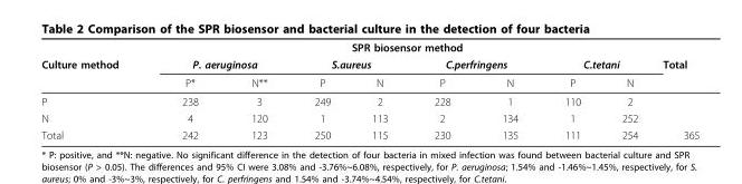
<table><thead><tr><td rowspan="3">Culture method</td><td colspan="8">SPR biosensor method</td><td rowspan="3">Total</td></tr><tr><td colspan="2">P. aeruginosa</td><td colspan="2">S.aureus</td><td colspan="2">C.perfringens</td><td colspan="2">C.tetani</td></tr><tr><td>P*</td><td>N**</td><td>P</td><td>N</td><td>P</td><td>N</td><td>P</td><td>N</td></tr></thead><tbody><tr><td>P</td><td>238</td><td>3</td><td>249</td><td>2</td><td>228</td><td>1</td><td>110</td><td>2</td><td></td></tr><tr><td>N</td><td>4</td><td>120</td><td>1</td><td>113</td><td>2</td><td>134</td><td>1</td><td>252</td><td></td></tr><tr><td>Total</td><td>242</td><td>123</td><td>250</td><td>115</td><td>230</td><td>135</td><td>111</td><td>254</td><td>365</td></tr></tbody></table>